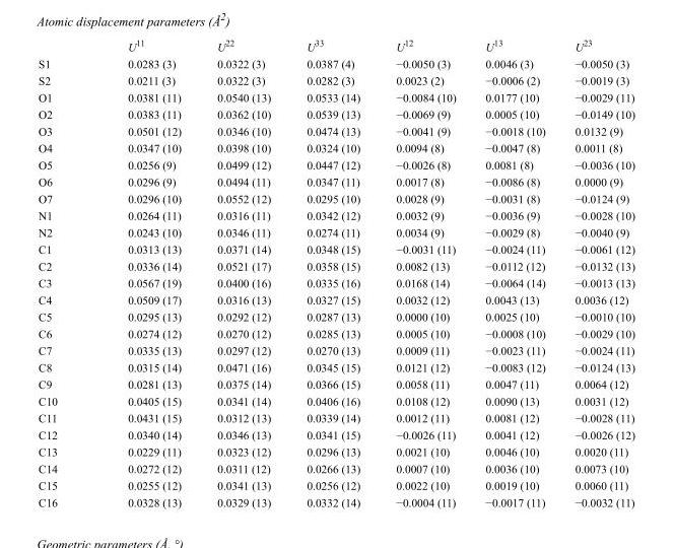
<table><thead><tr><td></td><td>U<sup>11</sup></td><td>U<sup>22</sup></td><td>U<sup>33</sup></td><td>U<sup>12</sup></td><td>U<sup>13</sup></td><td>U<sup>23</sup></td></tr></thead><tbody><tr><td>S1</td><td>0.0283 (3)</td><td>0.0322 (3)</td><td>0.0387 (4)</td><td>−0.0050 (3)</td><td>0.0046 (3)</td><td>−0.0050 (3)</td></tr><tr><td>S2</td><td>0.0211 (3)</td><td>0.0322 (3)</td><td>0.0282 (3)</td><td>0.0023 (2)</td><td>−0.0006 (2)</td><td>−0.0019 (3)</td></tr><tr><td>O1</td><td>0.0381 (11)</td><td>0.0540 (13)</td><td>0.0533 (14)</td><td>−0.0084 (10)</td><td>0.0177 (10)</td><td>−0.0029 (11)</td></tr><tr><td>O2</td><td>0.0383 (11)</td><td>0.0362 (10)</td><td>0.0539 (13)</td><td>−0.0069 (9)</td><td>0.0005 (10)</td><td>−0.0149 (10)</td></tr><tr><td>O3</td><td>0.0501 (12)</td><td>0.0346 (10)</td><td>0.0474 (13)</td><td>−0.0041 (9)</td><td>−0.0018 (10)</td><td>0.0132 (9)</td></tr><tr><td>O4</td><td>0.0347 (10)</td><td>0.0398 (10)</td><td>0.0324 (10)</td><td>0.0094 (8)</td><td>−0.0047 (8)</td><td>0.0011 (8)</td></tr><tr><td>O5</td><td>0.0256 (9)</td><td>0.0499 (12)</td><td>0.0447 (12)</td><td>−0.0026 (8)</td><td>0.0081 (8)</td><td>−0.0036 (10)</td></tr><tr><td>O6</td><td>0.0296 (9)</td><td>0.0494 (11)</td><td>0.0347 (11)</td><td>0.0017 (8)</td><td>−0.0086 (8)</td><td>0.0000 (9)</td></tr><tr><td>O7</td><td>0.0296 (10)</td><td>0.0552 (12)</td><td>0.0295 (10)</td><td>0.0028 (9)</td><td>−0.0031 (8)</td><td>−0.0124 (9)</td></tr><tr><td>N1</td><td>0.0264 (11)</td><td>0.0316 (11)</td><td>0.0342 (12)</td><td>0.0032 (9)</td><td>−0.0036 (9)</td><td>−0.0028 (10)</td></tr><tr><td>N2</td><td>0.0243 (10)</td><td>0.0346 (11)</td><td>0.0274 (11)</td><td>0.0034 (9)</td><td>−0.0029 (8)</td><td>−0.0040 (9)</td></tr><tr><td>C1</td><td>0.0313 (13)</td><td>0.0371 (14)</td><td>0.0348 (15)</td><td>−0.0031 (11)</td><td>−0.0024 (11)</td><td>−0.0061 (12)</td></tr><tr><td>C2</td><td>0.0336 (14)</td><td>0.0521 (17)</td><td>0.0358 (15)</td><td>0.0082 (13)</td><td>−0.0112 (12)</td><td>−0.0132 (13)</td></tr><tr><td>C3</td><td>0.0567 (19)</td><td>0.0400 (16)</td><td>0.0335 (16)</td><td>0.0168 (14)</td><td>−0.0064 (14)</td><td>−0.0013 (13)</td></tr><tr><td>C4</td><td>0.0509 (17)</td><td>0.0316 (13)</td><td>0.0327 (15)</td><td>0.0032 (12)</td><td>0.0043 (13)</td><td>0.0036 (12)</td></tr><tr><td>C5</td><td>0.0295 (13)</td><td>0.0292 (12)</td><td>0.0287 (13)</td><td>0.0000 (10)</td><td>0.0025 (10)</td><td>−0.0010 (10)</td></tr><tr><td>C6</td><td>0.0274 (12)</td><td>0.0270 (12)</td><td>0.0285 (13)</td><td>0.0005 (10)</td><td>−0.0008 (10)</td><td>−0.0029 (10)</td></tr><tr><td>C7</td><td>0.0335 (13)</td><td>0.0297 (12)</td><td>0.0270 (13)</td><td>0.0009 (11)</td><td>−0.0023 (11)</td><td>−0.0024 (11)</td></tr><tr><td>C8</td><td>0.0315 (14)</td><td>0.0471 (16)</td><td>0.0345 (15)</td><td>0.0121 (12)</td><td>−0.0083 (12)</td><td>−0.0124 (13)</td></tr><tr><td>C9</td><td>0.0281 (13)</td><td>0.0375 (14)</td><td>0.0366 (15)</td><td>0.0058 (11)</td><td>0.0047 (11)</td><td>0.0064 (12)</td></tr><tr><td>C10</td><td>0.0405 (15)</td><td>0.0341 (14)</td><td>0.0406 (16)</td><td>0.0108 (12)</td><td>0.0090 (13)</td><td>0.0031 (12)</td></tr><tr><td>C11</td><td>0.0431 (15)</td><td>0.0312 (13)</td><td>0.0339 (14)</td><td>0.0012 (11)</td><td>0.0081 (12)</td><td>−0.0028 (11)</td></tr><tr><td>C12</td><td>0.0340 (14)</td><td>0.0346 (13)</td><td>0.0341 (15)</td><td>−0.0026 (11)</td><td>0.0041 (12)</td><td>−0.0026 (12)</td></tr><tr><td>C13</td><td>0.0229 (11)</td><td>0.0323 (12)</td><td>0.0296 (13)</td><td>0.0021 (10)</td><td>0.0046 (10)</td><td>0.0020 (11)</td></tr><tr><td>C14</td><td>0.0272 (12)</td><td>0.0311 (12)</td><td>0.0266 (13)</td><td>0.0007 (10)</td><td>0.0036 (10)</td><td>0.0073 (10)</td></tr><tr><td>C15</td><td>0.0255 (12)</td><td>0.0341 (13)</td><td>0.0256 (12)</td><td>0.0022 (10)</td><td>0.0019 (10)</td><td>0.0060 (11)</td></tr><tr><td>C16</td><td>0.0328 (13)</td><td>0.0329 (13)</td><td>0.0332 (14)</td><td>−0.0004 (11)</td><td>−0.0017 (11)</td><td>−0.0032 (11)</td></tr></tbody></table>